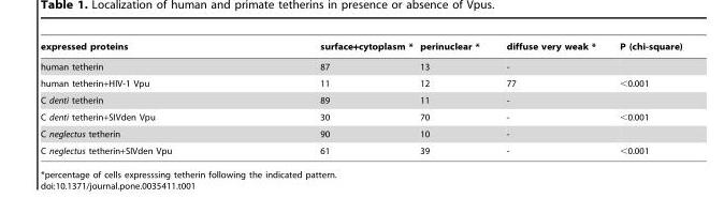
<table><thead><tr><td>expressed proteins</td><td>surface+cytoplasm *</td><td>perinuclear *</td><td>diffuse very weak *</td><td>P (chi-square)</td></tr></thead><tbody><tr><td>human tetherin</td><td>87</td><td>13</td><td>-</td><td></td></tr><tr><td>human tetherin+HIV-1 Vpu</td><td>11</td><td>12</td><td>77</td><td>&lt;0.001</td></tr><tr><td>C denti tetherin</td><td>89</td><td>11</td><td>-</td><td></td></tr><tr><td>C denti tetherin+SIVden Vpu</td><td>30</td><td>70</td><td>-</td><td>&lt;0.001</td></tr><tr><td>C neglectus tetherin</td><td>90</td><td>10</td><td>-</td><td></td></tr><tr><td>C neglectus tetherin+SIVden Vpu</td><td>61</td><td>39</td><td>-</td><td>&lt;0.001</td></tr></tbody></table>